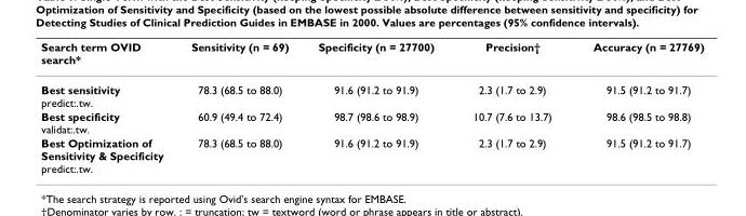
<table><thead><tr><td>Search term OVID search*</td><td>Sensitivity (n = 69)</td><td>Specificity (n = 27700)</td><td>Precision†</td><td>Accuracy (n = 27769)</td></tr></thead><tbody><tr><td>Best sensitivity predict:.tw.</td><td>78.3 (68.5 to 88.0)</td><td>91.6 (91.2 to 91.9)</td><td>2.3 (1.7 to 2.9)</td><td>91.5 (91.2 to 91.7)</td></tr><tr><td>Best specificity validat:.tw.</td><td>60.9 (49.4 to 72.4)</td><td>98.7 (98.6 to 98.9)</td><td>10.7 (7.6 to 13.7)</td><td>98.6 (98.5 to 98.8)</td></tr><tr><td>Best Optimization of Sensitivity &amp; Specificity predict:.tw.</td><td>78.3 (68.5 to 88.0)</td><td>91.6 (91.2 to 91.9)</td><td>2.3 (1.7 to 2.9)</td><td>91.5 (91.2 to 91.7)</td></tr></tbody></table>